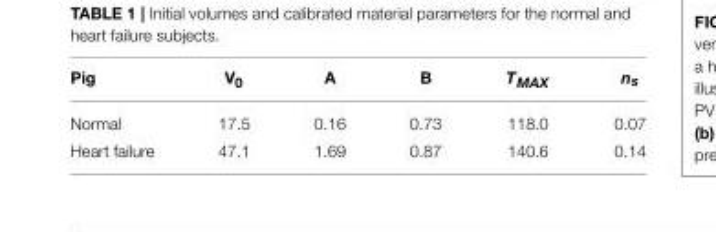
<table><thead><tr><td>Pig</td><td>V<sub>0</sub></td><td>A</td><td>B</td><td>T<sub>MAX</sub></td><td>n<sub>s</sub></td></tr></thead><tbody><tr><td>Normal</td><td>17.5</td><td>0.16</td><td>0.73</td><td>118.0</td><td>0.07</td></tr><tr><td>Heart failure</td><td>47.1</td><td>1.69</td><td>0.87</td><td>140.6</td><td>0.14</td></tr></tbody></table>